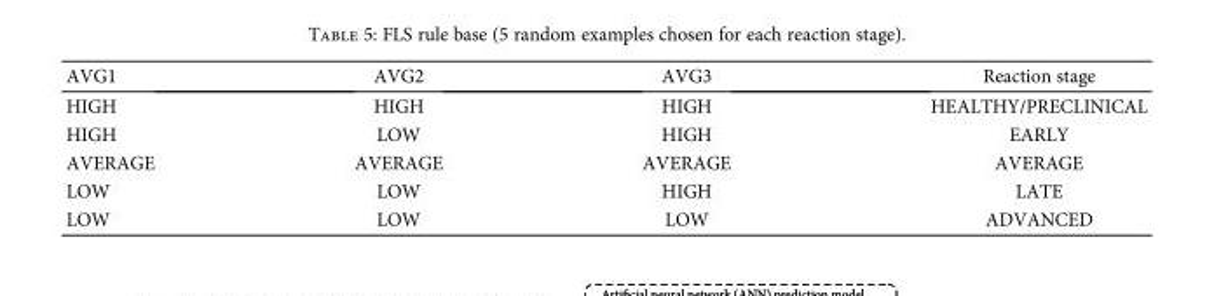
<table><thead><tr><td>AVG1</td><td>AVG2</td><td>AVG3</td><td>Reaction stage</td></tr></thead><tbody><tr><td>HIGH</td><td>HIGH</td><td>HIGH</td><td>HEALTHY/PRECLINICAL</td></tr><tr><td>HIGH</td><td>LOW</td><td>HIGH</td><td>EARLY</td></tr><tr><td>AVERAGE</td><td>AVERAGE</td><td>AVERAGE</td><td>AVERAGE</td></tr><tr><td>LOW</td><td>LOW</td><td>HIGH</td><td>LATE</td></tr><tr><td>LOW</td><td>LOW</td><td>LOW</td><td>ADVANCED</td></tr></tbody></table>